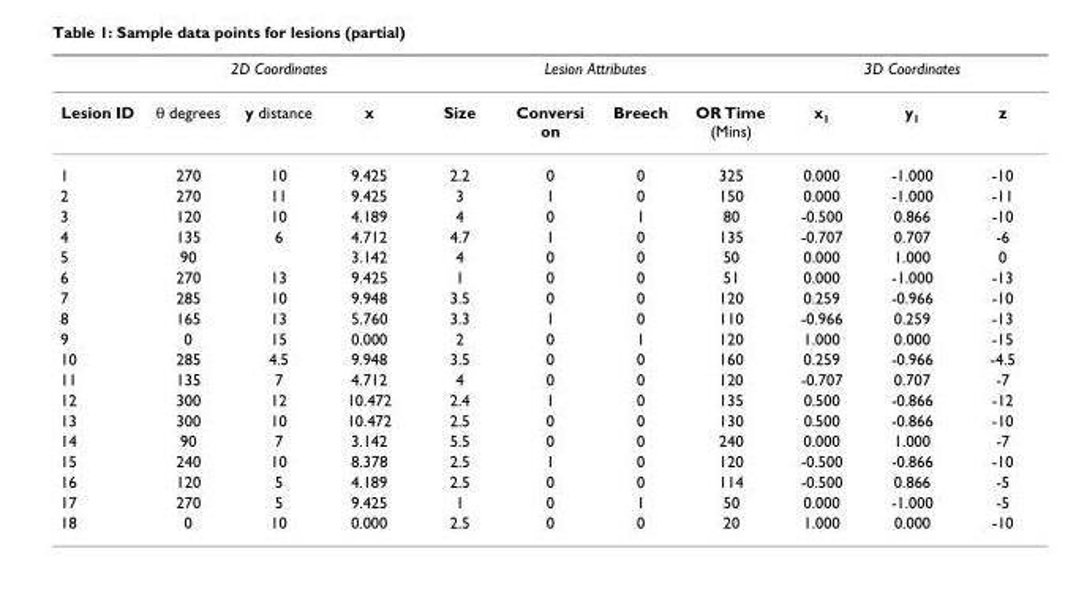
<table><thead><tr><td rowspan="2">Lesion ID</td><td colspan="3">2D Coordinates</td><td colspan="4">Lesion Attributes</td><td colspan="3">3D Coordinates</td></tr><tr><td>θ degrees</td><td>y distance</td><td>x</td><td>Size</td><td>Conversi on</td><td>Breech</td><td>OR Time (Mins)</td><td>x<sub>1</sub></td><td>y<sub>1</sub></td><td>z</td></tr></thead><tbody><tr><td>1</td><td>270</td><td>10</td><td>9.425</td><td>2.2</td><td>0</td><td>0</td><td>325</td><td>0.000</td><td>-1.000</td><td>-10</td></tr><tr><td>2</td><td>270</td><td>11</td><td>9.425</td><td>3</td><td>1</td><td>0</td><td>150</td><td>0.000</td><td>-1.000</td><td>-11</td></tr><tr><td>3</td><td>120</td><td>10</td><td>4.189</td><td>4</td><td>0</td><td>1</td><td>80</td><td>-0.500</td><td>0.866</td><td>-10</td></tr><tr><td>4</td><td>135</td><td>6</td><td>4.712</td><td>4.7</td><td>1</td><td>0</td><td>135</td><td>-0.707</td><td>0.707</td><td>-6</td></tr><tr><td>5</td><td>90</td><td></td><td>3.142</td><td>4</td><td>0</td><td>0</td><td>50</td><td>0.000</td><td>1.000</td><td>0</td></tr><tr><td>6</td><td>270</td><td>13</td><td>9.425</td><td>1</td><td>0</td><td>0</td><td>51</td><td>0.000</td><td>-1.000</td><td>-13</td></tr><tr><td>7</td><td>285</td><td>10</td><td>9.948</td><td>3.5</td><td>0</td><td>0</td><td>120</td><td>0.259</td><td>-0.966</td><td>-10</td></tr><tr><td>8</td><td>165</td><td>13</td><td>5.760</td><td>3.3</td><td>1</td><td>0</td><td>110</td><td>-0.966</td><td>0.259</td><td>-13</td></tr><tr><td>9</td><td>0</td><td>15</td><td>0.000</td><td>2</td><td>0</td><td>1</td><td>120</td><td>1.000</td><td>0.000</td><td>-15</td></tr><tr><td>10</td><td>285</td><td>4.5</td><td>9.948</td><td>3.5</td><td>0</td><td>0</td><td>160</td><td>0.259</td><td>-0.966</td><td>-4.5</td></tr><tr><td>11</td><td>135</td><td>7</td><td>4.712</td><td>4</td><td>0</td><td>0</td><td>120</td><td>-0.707</td><td>0.707</td><td>-7</td></tr><tr><td>12</td><td>300</td><td>12</td><td>10.472</td><td>2.4</td><td>1</td><td>0</td><td>135</td><td>0.500</td><td>-0.866</td><td>-12</td></tr><tr><td>13</td><td>300</td><td>10</td><td>10.472</td><td>2.5</td><td>0</td><td>0</td><td>130</td><td>0.500</td><td>-0.866</td><td>-10</td></tr><tr><td>14</td><td>90</td><td>7</td><td>3.142</td><td>5.5</td><td>0</td><td>0</td><td>240</td><td>0.000</td><td>1.000</td><td>-7</td></tr><tr><td>15</td><td>240</td><td>10</td><td>8.378</td><td>2.5</td><td>1</td><td>0</td><td>120</td><td>-0.500</td><td>-0.866</td><td>-10</td></tr><tr><td>16</td><td>120</td><td>5</td><td>4.189</td><td>2.5</td><td>0</td><td>0</td><td>114</td><td>-0.500</td><td>0.866</td><td>-5</td></tr><tr><td>17</td><td>270</td><td>5</td><td>9.425</td><td>1</td><td>0</td><td>1</td><td>50</td><td>0.000</td><td>-1.000</td><td>-5</td></tr><tr><td>18</td><td>0</td><td>10</td><td>0.000</td><td>2.5</td><td>0</td><td>0</td><td>20</td><td>1.000</td><td>0.000</td><td>-10</td></tr></tbody></table>